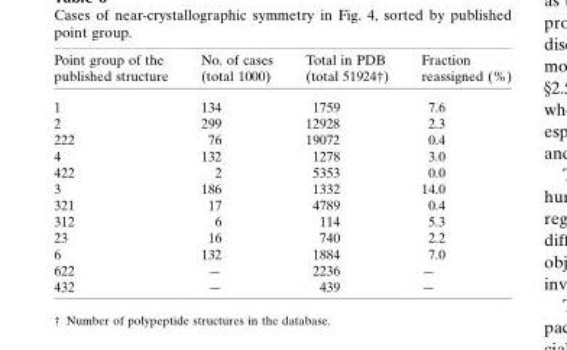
<table><thead><tr><td>Point group of the published structure</td><td>No. of cases (total 1000)</td><td>Total in PDB (total 51924†)</td><td>Fraction reassigned (%)</td></tr></thead><tbody><tr><td>1</td><td>134</td><td>1759</td><td>7.6</td></tr><tr><td>2</td><td>299</td><td>12928</td><td>2.3</td></tr><tr><td>222</td><td>76</td><td>19072</td><td>0.4</td></tr><tr><td>4</td><td>132</td><td>1278</td><td>3.0</td></tr><tr><td>422</td><td>2</td><td>5353</td><td>0.0</td></tr><tr><td>3</td><td>186</td><td>1332</td><td>14.0</td></tr><tr><td>321</td><td>17</td><td>4789</td><td>0.4</td></tr><tr><td>312</td><td>6</td><td>114</td><td>5.3</td></tr><tr><td>23</td><td>16</td><td>740</td><td>2.2</td></tr><tr><td>6</td><td>132</td><td>1884</td><td>7.0</td></tr><tr><td>622</td><td>—</td><td>2236</td><td>—</td></tr><tr><td>432</td><td>—</td><td>439</td><td>—</td></tr></tbody></table>